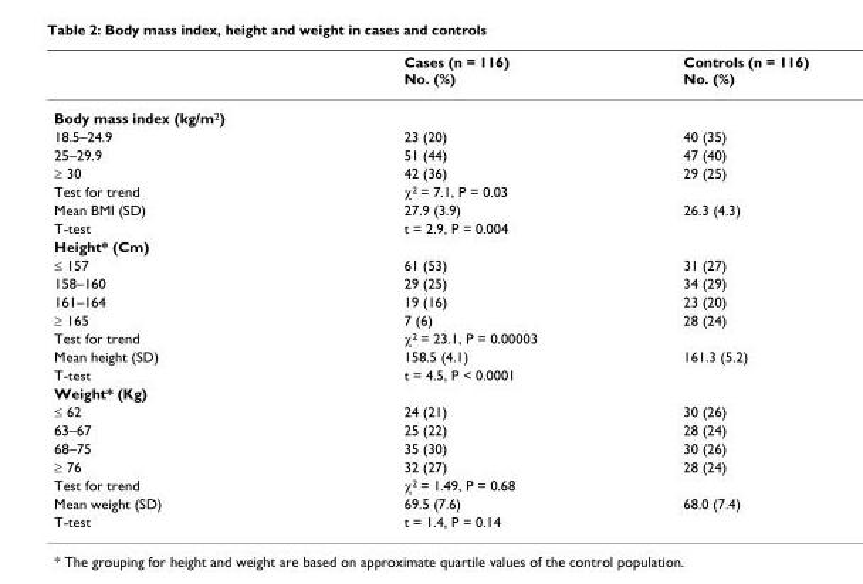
<table><thead><tr><td></td><td>Cases (n = 116) No. (%)</td><td>Controls (n = 116) No. (%)</td></tr></thead><tbody><tr><td colspan="3">Body mass index (kg/m<sup>2</sup>)</td></tr><tr><td>18.5–24.9</td><td>23 (20)</td><td>40 (35)</td></tr><tr><td>25–29.9</td><td>51 (44)</td><td>47 (40)</td></tr><tr><td>≥ 30</td><td>42 (36)</td><td>29 (25)</td></tr><tr><td>Test for trend</td><td>χ<sup>2</sup> = 7.1, P = 0.03</td><td></td></tr><tr><td>Mean BMI (SD)</td><td>27.9 (3.9)</td><td>26.3 (4.3)</td></tr><tr><td>T-test</td><td>t = 2.9, P = 0.004</td><td></td></tr><tr><td colspan="3">Height* (Cm)</td></tr><tr><td>≤ 157</td><td>61 (53)</td><td>31 (27)</td></tr><tr><td>158–160</td><td>29 (25)</td><td>34 (29)</td></tr><tr><td>161–164</td><td>19 (16)</td><td>23 (20)</td></tr><tr><td>≥ 165</td><td>7 (6)</td><td>28 (24)</td></tr><tr><td>Test for trend</td><td>χ<sup>2</sup> = 23.1, P = 0.00003</td><td></td></tr><tr><td>Mean height (SD)</td><td>158.5 (4.1)</td><td>161.3 (5.2)</td></tr><tr><td>T-test</td><td>t = 4.5, P &lt; 0.0001</td><td></td></tr><tr><td colspan="3">Weight* (Kg)</td></tr><tr><td>≤ 62</td><td>24 (21)</td><td>30 (26)</td></tr><tr><td>63–67</td><td>25 (22)</td><td>28 (24)</td></tr><tr><td>68–75</td><td>35 (30)</td><td>30 (26)</td></tr><tr><td>≥ 76</td><td>32 (27)</td><td>28 (24)</td></tr><tr><td>Test for trend</td><td>χ<sup>2</sup> = 1.49, P = 0.68</td><td></td></tr><tr><td>Mean weight (SD)</td><td>69.5 (7.6)</td><td>68.0 (7.4)</td></tr><tr><td>T-test</td><td>t = 1.4, P = 0.14</td><td></td></tr></tbody></table>